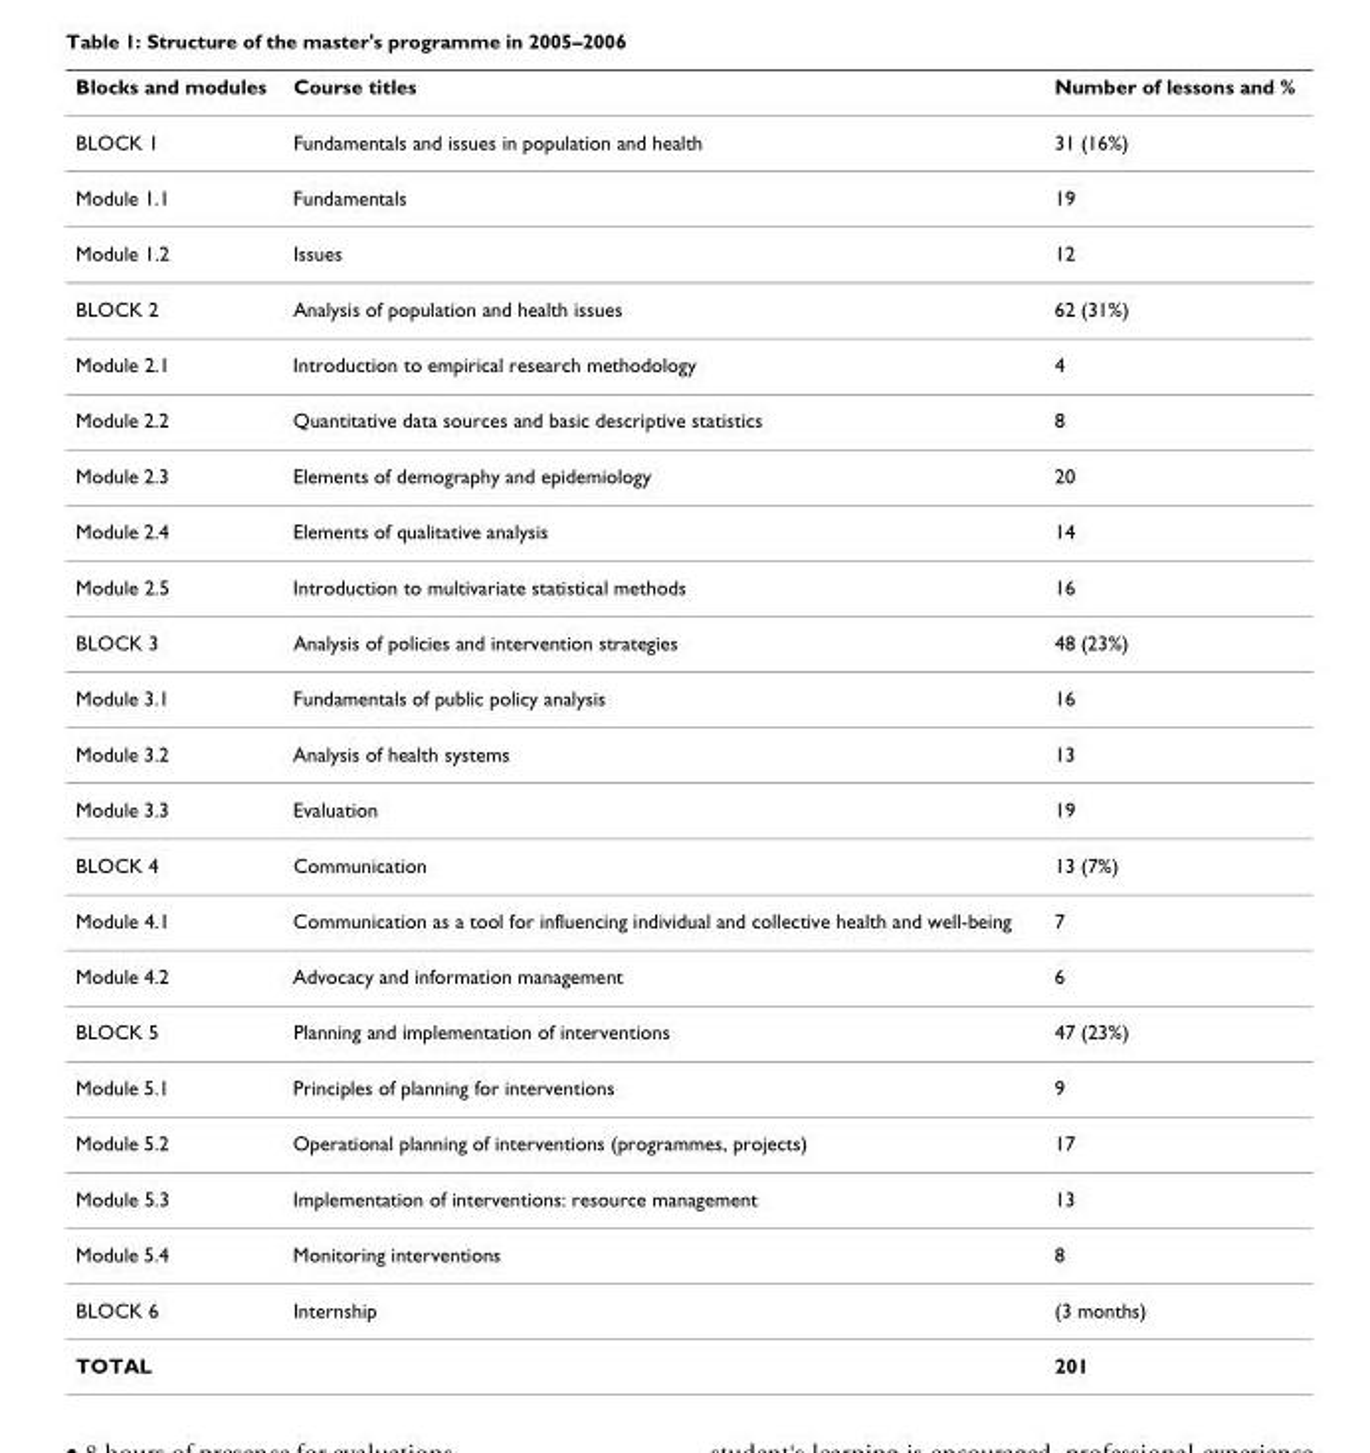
<table><thead><tr><td>Blocks and modules</td><td>Course titles</td><td>Number of lessons and %</td></tr></thead><tbody><tr><td>BLOCK 1</td><td>Fundamentals and issues in population and health</td><td>31 (16%)</td></tr><tr><td>Module 1.1</td><td>Fundamentals</td><td>19</td></tr><tr><td>Module 1.2</td><td>Issues</td><td>12</td></tr><tr><td>BLOCK 2</td><td>Analysis of population and health issues</td><td>62 (31%)</td></tr><tr><td>Module 2.1</td><td>Introduction to empirical research methodology</td><td>4</td></tr><tr><td>Module 2.2</td><td>Quantitative data sources and basic descriptive statistics</td><td>8</td></tr><tr><td>Module 2.3</td><td>Elements of demography and epidemiology</td><td>20</td></tr><tr><td>Module 2.4</td><td>Elements of qualitative analysis</td><td>14</td></tr><tr><td>Module 2.5</td><td>Introduction to multivariate statistical methods</td><td>16</td></tr><tr><td>BLOCK 3</td><td>Analysis of policies and intervention strategies</td><td>48 (23%)</td></tr><tr><td>Module 3.1</td><td>Fundamentals of public policy analysis</td><td>16</td></tr><tr><td>Module 3.2</td><td>Analysis of health systems</td><td>13</td></tr><tr><td>Module 3.3</td><td>Evaluation</td><td>19</td></tr><tr><td>BLOCK 4</td><td>Communication</td><td>13 (7%)</td></tr><tr><td>Module 4.1</td><td>Communication as a tool for influencing individual and collective health and well-being</td><td>7</td></tr><tr><td>Module 4.2</td><td>Advocacy and information management</td><td>6</td></tr><tr><td>BLOCK 5</td><td>Planning and implementation of interventions</td><td>47 (23%)</td></tr><tr><td>Module 5.1</td><td>Principles of planning for interventions</td><td>9</td></tr><tr><td>Module 5.2</td><td>Operational planning of interventions (programmes, projects)</td><td>17</td></tr><tr><td>Module 5.3</td><td>Implementation of interventions: resource management</td><td>13</td></tr><tr><td>Module 5.4</td><td>Monitoring interventions</td><td>8</td></tr><tr><td>BLOCK 6</td><td>Internship</td><td>(3 months)</td></tr><tr><td>TOTAL</td><td></td><td>201</td></tr></tbody></table>